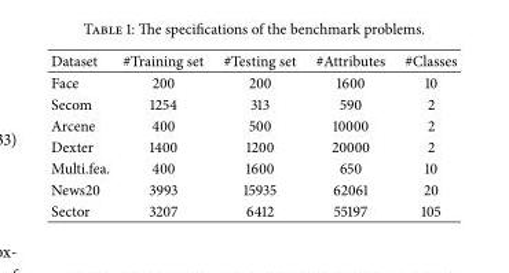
<table><thead><tr><td>Dataset</td><td>#Training set</td><td>#Testing set</td><td>#Attributes</td><td>#Classes</td></tr></thead><tbody><tr><td>Face</td><td>200</td><td>200</td><td>1600</td><td>10</td></tr><tr><td>Secom</td><td>1254</td><td>313</td><td>590</td><td>2</td></tr><tr><td>Arcene</td><td>400</td><td>500</td><td>10000</td><td>2</td></tr><tr><td>Dexter</td><td>1400</td><td>1200</td><td>20000</td><td>2</td></tr><tr><td>Multi.fea.</td><td>400</td><td>1600</td><td>650</td><td>10</td></tr><tr><td>News20</td><td>3993</td><td>15935</td><td>62061</td><td>20</td></tr><tr><td>Sector</td><td>3207</td><td>6412</td><td>55197</td><td>105</td></tr></tbody></table>